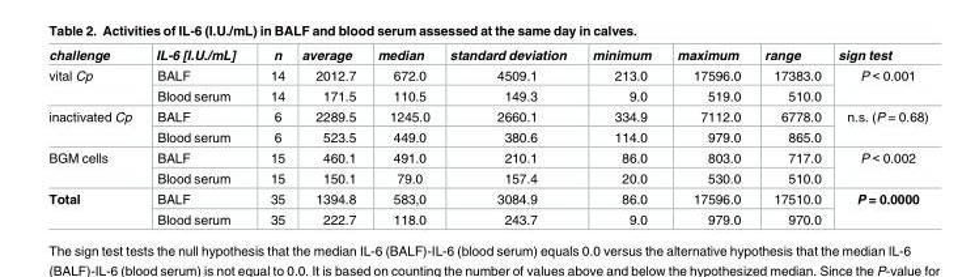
<table><thead><tr><td>challenge</td><td>IL-6 [I.U./mL]</td><td>n</td><td>average</td><td>median</td><td>standard deviation</td><td>minimum</td><td>maximum</td><td>range</td><td>sign test</td></tr></thead><tbody><tr><td rowspan="2">vital Cp</td><td>BALF</td><td>14</td><td>2012.7</td><td>672.0</td><td>4509.1</td><td>213.0</td><td>17596.0</td><td>17383.0</td><td rowspan="2">P &lt; 0.001</td></tr><tr><td>Blood serum</td><td>14</td><td>171.5</td><td>110.5</td><td>149.3</td><td>9.0</td><td>519.0</td><td>510.0</td></tr><tr><td rowspan="2">inactivated Cp</td><td>BALF</td><td>6</td><td>2289.5</td><td>1245.0</td><td>2660.1</td><td>334.9</td><td>7112.0</td><td>6778.0</td><td rowspan="2">n.s. (P = 0.68)</td></tr><tr><td>Blood serum</td><td>6</td><td>523.5</td><td>449.0</td><td>380.6</td><td>114.0</td><td>979.0</td><td>865.0</td></tr><tr><td rowspan="2">BGM cells</td><td>BALF</td><td>15</td><td>460.1</td><td>491.0</td><td>210.1</td><td>86.0</td><td>803.0</td><td>717.0</td><td rowspan="2">P &lt; 0.002</td></tr><tr><td>Blood serum</td><td>15</td><td>150.1</td><td>79.0</td><td>157.4</td><td>20.0</td><td>530.0</td><td>510.0</td></tr><tr><td rowspan="2">Total</td><td>BALF</td><td>35</td><td>1394.8</td><td>583,0</td><td>3084.9</td><td>86.0</td><td>17596.0</td><td>17510.0</td><td rowspan="2">P = 0.0000</td></tr><tr><td>Blood serum</td><td>35</td><td>222.7</td><td>118.0</td><td>243.7</td><td>9.0</td><td>979.0</td><td>970.0</td></tr></tbody></table>